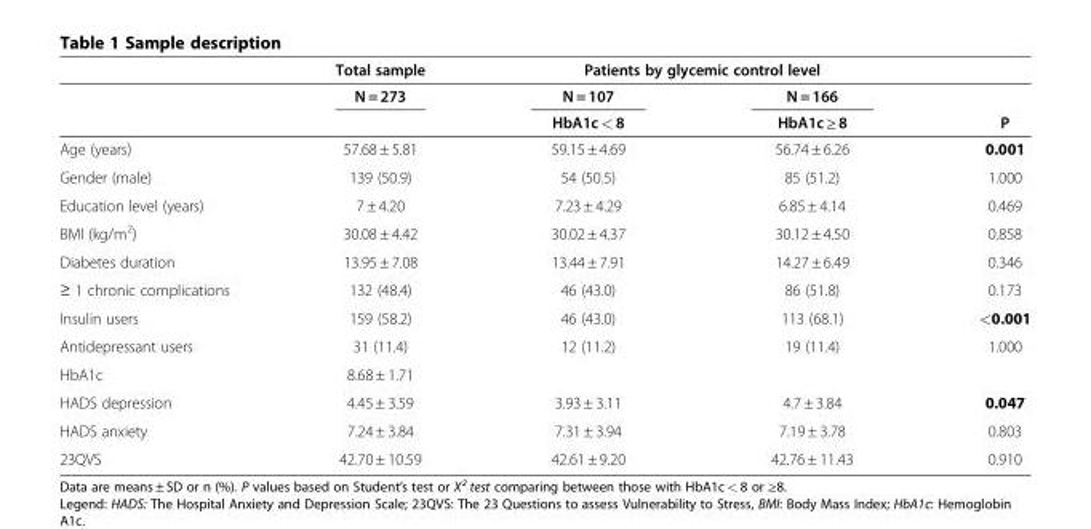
<table><thead><tr><td rowspan="3"></td><td rowspan="3">Total sample N = 273</td><td colspan="2">Patients by glycemic control level</td><td rowspan="3">P</td></tr><tr><td rowspan="2">N = 107 HbA1c &lt; 8</td><td rowspan="2">N = 166 HbA1c ≥ 8</td></tr><tr></tr></thead><tbody><tr><td>Age (years)</td><td>57.68 ± 5.81</td><td>59.15 ± 4.69</td><td>56.74 ± 6.26</td><td>0.001</td></tr><tr><td>Gender (male)</td><td>139 (50.9)</td><td>54 (50.5)</td><td>85 (51.2)</td><td>1.000</td></tr><tr><td>Education level (years)</td><td>7 ± 4.20</td><td>7.23 ± 4.29</td><td>6.85 ± 4.14</td><td>0.469</td></tr><tr><td>BMI (kg/m<sup>2</sup>)</td><td>30.08 ± 4.42</td><td>30.02 ± 4.37</td><td>30.12 ± 4.50</td><td>0.858</td></tr><tr><td>Diabetes duration</td><td>13.95 ± 7.08</td><td>13.44 ± 7.91</td><td>14.27 ± 6.49</td><td>0.346</td></tr><tr><td>≥ 1 chronic complications</td><td>132 (48.4)</td><td>46 (43.0)</td><td>86 (51.8)</td><td>0.173</td></tr><tr><td>Insulin users</td><td>159 (58.2)</td><td>46 (43.0)</td><td>113 (68.1)</td><td>&lt;0.001</td></tr><tr><td>Antidepressant users</td><td>31 (11.4)</td><td>12 (11.2)</td><td>19 (11.4)</td><td>1.000</td></tr><tr><td>HbA1c</td><td>8.68 ± 1.71</td><td></td><td></td><td></td></tr><tr><td>HADS depression</td><td>4.45 ± 3.59</td><td>3.93 ± 3.11</td><td>4.7 ± 3.84</td><td>0.047</td></tr><tr><td>HADS anxiety</td><td>7.24 ± 3.84</td><td>7.31 ± 3.94</td><td>7.19 ± 3.78</td><td>0.803</td></tr><tr><td>23QVS</td><td>42.70 ± 10.59</td><td>42.61 ± 9.20</td><td>42.76 ± 11.43</td><td>0.910</td></tr></tbody></table>